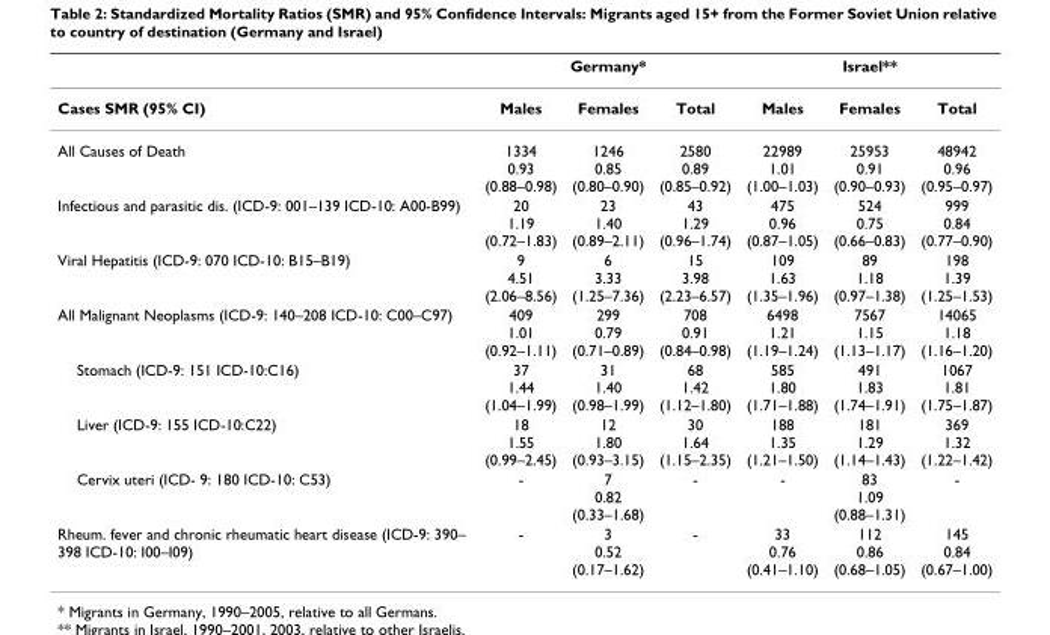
<table><thead><tr><td rowspan="2">Cases SMR (95% CI)</td><td colspan="3">Germany*</td><td colspan="3">Israel**</td></tr><tr><td>Males</td><td>Females</td><td>Total</td><td>Males</td><td>Females</td><td>Total</td></tr></thead><tbody><tr><td>All Causes of Death</td><td>1334 0.93 (0.88–0.98)</td><td>1246 0.85 (0.80–0.90)</td><td>2580 0.89 (0.85–0.92)</td><td>22989 1.01 (1.00–1.03)</td><td>25953 0.91 (0.90–0.93)</td><td>48942 0.96 (0.95–0.97)</td></tr><tr><td>Infectious and parasitic dis. (ICD-9: 001–139 ICD-10: A00-B99)</td><td>20 1.19 (0.72–1.83)</td><td>23 1.40 (0.89–2.11)</td><td>43 1.29 (0.96–1.74)</td><td>475 0.96 (0.87–1.05)</td><td>524 0.75 (0.66–0.83)</td><td>999 0.84 (0.77–0.90)</td></tr><tr><td>Viral Hepatitis (ICD-9: 070 ICD-10: B15–B19)</td><td>9 4.51 (2.06–8.56)</td><td>6 3.33 (1.25–7.36)</td><td>15 3.98 (2.23–6.57)</td><td>109 1.63 (1.35–1.96)</td><td>89 1.18 (0.97–1.38)</td><td>198 1.39 (1.25–1.53)</td></tr><tr><td>All Malignant Neoplasms (ICD-9: 140–208 ICD-10: C00–C97)</td><td>409 1.01 (0.92–1.11)</td><td>299 0.79 (0.71–0.89)</td><td>708 0.91 (0.84–0.98)</td><td>6498 1.21 (1.19–1.24)</td><td>7567 1.15 (1.13–1.17)</td><td>14065 1.18 (1.16–1.20)</td></tr><tr><td>Stomach (ICD-9: 151 ICD-10:C16)</td><td>37 1.44 (1.04–1.99)</td><td>31 1.40 (0.98–1.99)</td><td>68 1.42 (1.12–1.80)</td><td>585 1.80 (1.71–1.88)</td><td>491 1.83 (1.74–1.91)</td><td>1067 1.81 (1.75–1.87)</td></tr><tr><td>Liver (ICD-9: 155 ICD-10:C22)</td><td>18 1.55 (0.99–2.45)</td><td>12 1.80 (0.93–3.15)</td><td>30 1.64 (1.15–2.35)</td><td>188 1.35 (1.21–1.50)</td><td>181 1.29 (1.14–1.43)</td><td>369 1.32 (1.22–1.42)</td></tr><tr><td>Cervix uteri (ICD- 9: 180 ICD-10: C53)</td><td>-</td><td>7 0.82 (0.33–1.68)</td><td>-</td><td>-</td><td>83 1.09 (0.88–1.31)</td><td>-</td></tr><tr><td>Rheum. fever and chronic rheumatic heart disease (ICD-9: 390– 398 ICD-10: I00–I09)</td><td>-</td><td>3 0.52 (0.17–1.62)</td><td>-</td><td>33 0.76 (0.41–1.10)</td><td>112 0.86 (0.68–1.05)</td><td>145 0.84 (0.67–1.00)</td></tr></tbody></table>